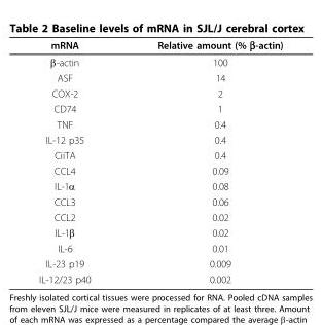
<table><thead><tr><td>mRNA</td><td>Relative amount (% β-actin)</td></tr></thead><tbody><tr><td>β-actin</td><td>100</td></tr><tr><td>ASF</td><td>14</td></tr><tr><td>COX-2</td><td>2</td></tr><tr><td>CD74</td><td>1</td></tr><tr><td>TNF</td><td>0.4</td></tr><tr><td>IL-12 p35</td><td>0.4</td></tr><tr><td>CiiTA</td><td>0.4</td></tr><tr><td>CCL4</td><td>0.09</td></tr><tr><td>IL-1α</td><td>0.08</td></tr><tr><td>CCL3</td><td>0.06</td></tr><tr><td>CCL2</td><td>0.02</td></tr><tr><td>IL-1β</td><td>0.02</td></tr><tr><td>IL-6</td><td>0.01</td></tr><tr><td>IL-23 p19</td><td>0.009</td></tr><tr><td>IL-12/23 p40</td><td>0.002</td></tr></tbody></table>